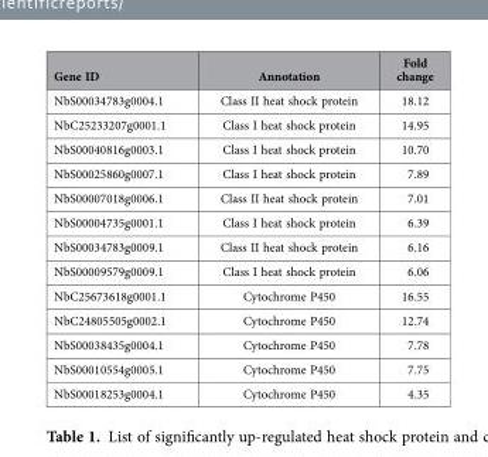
<table><thead><tr><td>Gene ID</td><td>Annotation</td><td>Fold change</td></tr></thead><tbody><tr><td>NbS00034783g0004.1</td><td>Class II heat shock protein</td><td>18.12</td></tr><tr><td>NbC25233207g0001.1</td><td>Class I heat shock protein</td><td>14.95</td></tr><tr><td>NbS00040816g0003.1</td><td>Class I heat shock protein</td><td>10.70</td></tr><tr><td>NbS00025860g0007.1</td><td>Class I heat shock protein</td><td>7.89</td></tr><tr><td>NbS00007018g0006.1</td><td>Class II heat shock protein</td><td>7.01</td></tr><tr><td>NbS00004735g0001.1</td><td>Class I heat shock protein</td><td>6.39</td></tr><tr><td>NbS00034783g0009.1</td><td>Class II heat shock protein</td><td>6.16</td></tr><tr><td>NbS00009579g0009.1</td><td>Class I heat shock protein</td><td>6.06</td></tr><tr><td>NbC25673618g0001.1</td><td>Cytochrome P450</td><td>16.55</td></tr><tr><td>NbC24805505g0002.1</td><td>Cytochrome P450</td><td>12.74</td></tr><tr><td>NbS00038435g0004.1</td><td>Cytochrome P450</td><td>7.78</td></tr><tr><td>NbS00010554g0005.1</td><td>Cytochrome P450</td><td>7.75</td></tr><tr><td>NbS00018253g0004.1</td><td>Cytochrome P450</td><td>4.35</td></tr></tbody></table>